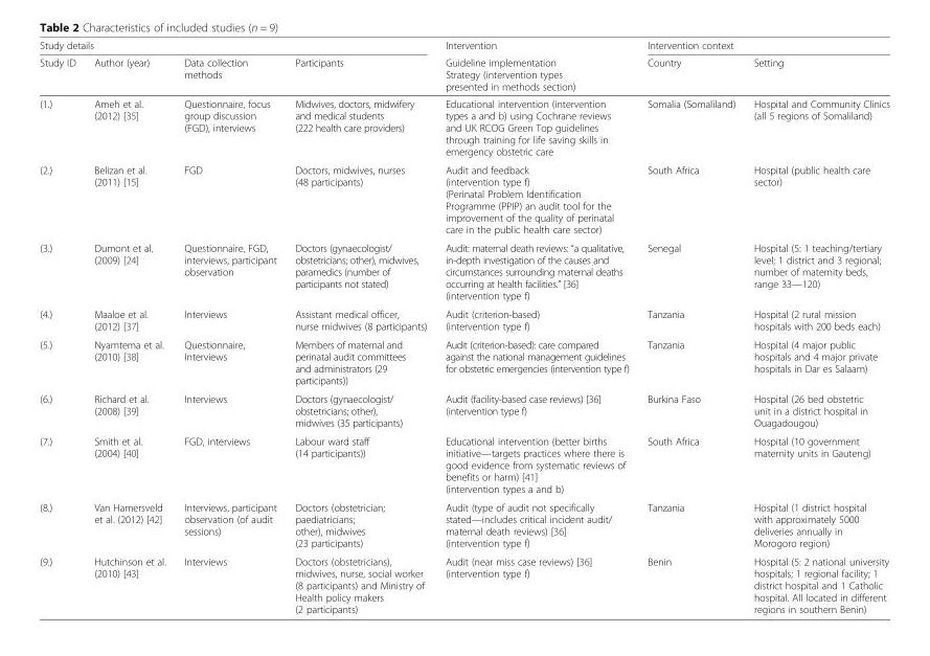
<table><thead><tr><td colspan="4">Study details</td><td rowspan="2">Intervention Guideline implementation Strategy (intervention types presented in methods section)</td><td colspan="2">Intervention context</td></tr><tr><td>Study ID</td><td>Author (year)</td><td>Data collection methods</td><td>Participants</td><td>Country</td><td>Setting</td></tr></thead><tbody><tr><td>(1.)</td><td>Ameh et al. (2012) [35]</td><td>Questionnaire, focus group discussion (FGD), interviews</td><td>Midwives, doctors, midwifery and medical students (222 health care providers)</td><td>Educational intervention (intervention types a and b) using Cochrane reviews and UK RCOG Green Top guidelines through training for life saving skills in emergency obstetric care</td><td>Somalia (Somaliland)</td><td>Hospital and Community Clinics (all 5 regions of Somaliland)</td></tr><tr><td>(2.)</td><td>Belizan et al. (2011) [15]</td><td>FGD</td><td>Doctors, midwives, nurses (48 participants)</td><td>Audit and feedback (intervention type f) (Perinatal Problem Identification Programme (PPIP) an audit tool for the improvement of the quality of perinatal care in the public health care sector)</td><td>South Africa</td><td>Hospital (public health care sector)</td></tr><tr><td>(3.)</td><td>Dumont et al. (2009) [24]</td><td>Questionnaire, FGD, interviews, participant observation</td><td>Doctors (gynaecologist/ obstetricians; other), midwives, paramedics (number of participants not stated)</td><td>Audit: maternal death reviews: “a qualitative, in-depth investigation of the causes and circumstances surrounding maternal deaths occurring at health facilities.” [36] (intervention type f)</td><td>Senegal</td><td>Hospital (5: 1 teaching/tertiary level; 1 district and 3 regional; number of maternity beds, range 33—120)</td></tr><tr><td>(4.)</td><td>Maaloe et al. (2012) [37]</td><td>Interviews</td><td>Assistant medical officer, nurse midwives (8 participants)</td><td>Audit (criterion-based) (intervention type f)</td><td>Tanzania</td><td>Hospital (2 rural mission hospitals with 200 beds each)</td></tr><tr><td>(5.)</td><td>Nyamtema et al. (2010) [38]</td><td>Questionnaire, Interviews</td><td>Members of maternal and perinatal audit committees and administrators (29 participants))</td><td>Audit (criterion-based): care compared against the national management guidelines for obstetric emergencies (intervention type f)</td><td>Tanzania</td><td>Hospital (4 major public hospitals and 4 major private hospitals in Dar es Salaam)</td></tr><tr><td>(6.)</td><td>Richard et al. (2008) [39]</td><td>Interviews</td><td>Doctors (gynaecologist/ obstetricians; other), midwives (35 participants)</td><td>Audit (facility-based case reviews) [36] (intervention type f)</td><td>Burkina Faso</td><td>Hospital (26 bed obstetric unit in a district hospital in Ouagadougou)</td></tr><tr><td>(7.)</td><td>Smith et al. (2004) [40]</td><td>FGD, interviews</td><td>Labour ward staff (14 participants))</td><td>Educational intervention (better births initiative—targets practices where there is good evidence from systematic reviews of benefits or harm) [41] (intervention types a and b)</td><td>South Africa</td><td>Hospital (10 government maternity units in Gauteng)</td></tr><tr><td>(8.)</td><td>Van Hamersveld et al. (2012) [42]</td><td>Interviews, participant observation (of audit sessions)</td><td>Doctors (obstetrician; paediatricians; other), midwives (23 participants)</td><td>Audit (type of audit not specifically stated—includes critical incident audit/ maternal death reviews) [36] (intervention type f)</td><td>Tanzania</td><td>Hospital (1 district hospital with approximately 5000 deliveries annually in Morogoro region)</td></tr><tr><td>(9.)</td><td>Hutchinson et al. (2010) [43]</td><td>Interviews</td><td>Doctors (obstetricians), midwives, nurse, social worker (8 participants) and Ministry of Health policy makers (2 participants)</td><td>Audit (near miss case reviews) [36] (intervention type f)</td><td>Benin</td><td>Hospital (5: 2 national university hospitals; 1 regional facility; 1 district hospital and 1 Catholic hospital. All located in different regions in southern Benin)</td></tr></tbody></table>